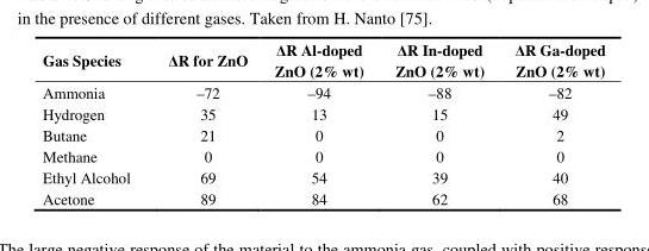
<table><thead><tr><td>Gas Species</td><td>∆R for ZnO</td><td>∆R Al-doped ZnO (2% wt)</td><td>∆R In-doped ZnO (2% wt)</td><td>∆R Ga-doped ZnO (2% wt)</td></tr></thead><tbody><tr><td>Ammonia</td><td>–72</td><td>–94</td><td>–88</td><td>–82</td></tr><tr><td>Hydrogen</td><td>35</td><td>13</td><td>15</td><td>49</td></tr><tr><td>Butane</td><td>21</td><td>0</td><td>0</td><td>2</td></tr><tr><td>Methane</td><td>0</td><td>0</td><td>0</td><td>0</td></tr><tr><td>Ethyl Alcohol</td><td>69</td><td>54</td><td>39</td><td>40</td></tr><tr><td>Acetone</td><td>89</td><td>84</td><td>62</td><td>68</td></tr></tbody></table>